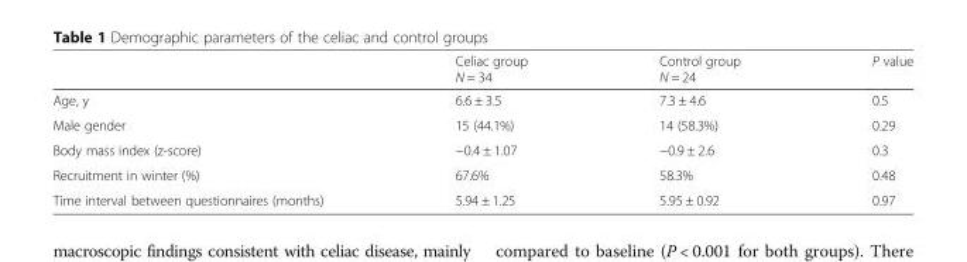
<table><thead><tr><td></td><td>Celiac group N = 34</td><td>Control group N = 24</td><td>P value</td></tr></thead><tbody><tr><td>Age, y</td><td>6.6 ± 3.5</td><td>7.3 ± 4.6</td><td>0.5</td></tr><tr><td>Male gender</td><td>15 (44.1%)</td><td>14 (58.3%)</td><td>0.29</td></tr><tr><td>Body mass index (z-score)</td><td>−0.4 ± 1.07</td><td>−0.9 ± 2.6</td><td>0.3</td></tr><tr><td>Recruitment in winter (%)</td><td>67.6%</td><td>58.3%</td><td>0.48</td></tr><tr><td>Time interval between questionnaires (months)</td><td>5.94 ± 1.25</td><td>5.95 ± 0.92</td><td>0.97</td></tr></tbody></table>